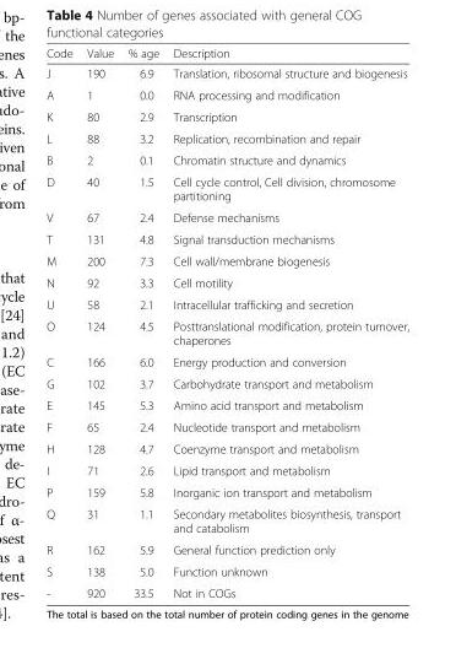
<table><thead><tr><td>Code</td><td>Value</td><td>% age</td><td>Description</td></tr></thead><tbody><tr><td>J</td><td>190</td><td>6.9</td><td>Translation, ribosomal structure and biogenesis</td></tr><tr><td>A</td><td>1</td><td>0.0</td><td>RNA processing and modification</td></tr><tr><td>K</td><td>80</td><td>2.9</td><td>Transcription</td></tr><tr><td>L</td><td>88</td><td>3.2</td><td>Replication, recombination and repair</td></tr><tr><td>B</td><td>2</td><td>0.1</td><td>Chromatin structure and dynamics</td></tr><tr><td>D</td><td>40</td><td>1.5</td><td>Cell cycle control, Cell division, chromosome partitioning</td></tr><tr><td>V</td><td>67</td><td>2.4</td><td>Defense mechanisms</td></tr><tr><td>T</td><td>131</td><td>4.8</td><td>Signal transduction mechanisms</td></tr><tr><td>M</td><td>200</td><td>7.3</td><td>Cell wall/membrane biogenesis</td></tr><tr><td>N</td><td>92</td><td>3.3</td><td>Cell motility</td></tr><tr><td>U</td><td>58</td><td>2.1</td><td>Intracellular trafficking and secretion</td></tr><tr><td>O</td><td>124</td><td>4.5</td><td>Posttranslational modification, protein turnover, chaperones</td></tr><tr><td>C</td><td>166</td><td>6.0</td><td>Energy production and conversion</td></tr><tr><td>G</td><td>102</td><td>3.7</td><td>Carbohydrate transport and metabolism</td></tr><tr><td>E</td><td>145</td><td>5.3</td><td>Amino acid transport and metabolism</td></tr><tr><td>F</td><td>65</td><td>2.4</td><td>Nucleotide transport and metabolism</td></tr><tr><td>H</td><td>128</td><td>4.7</td><td>Coenzyme transport and metabolism</td></tr><tr><td>I</td><td>71</td><td>2.6</td><td>Lipid transport and metabolism</td></tr><tr><td>P</td><td>159</td><td>5.8</td><td>Inorganic ion transport and metabolism</td></tr><tr><td>Q</td><td>31</td><td>1.1</td><td>Secondary metabolites biosynthesis, transport and catabolism</td></tr><tr><td>R</td><td>162</td><td>5.9</td><td>General function prediction only</td></tr><tr><td>S</td><td>138</td><td>5.0</td><td>Function unknown</td></tr><tr><td>-</td><td>920</td><td>33.5</td><td>Not in COGs</td></tr></tbody></table>